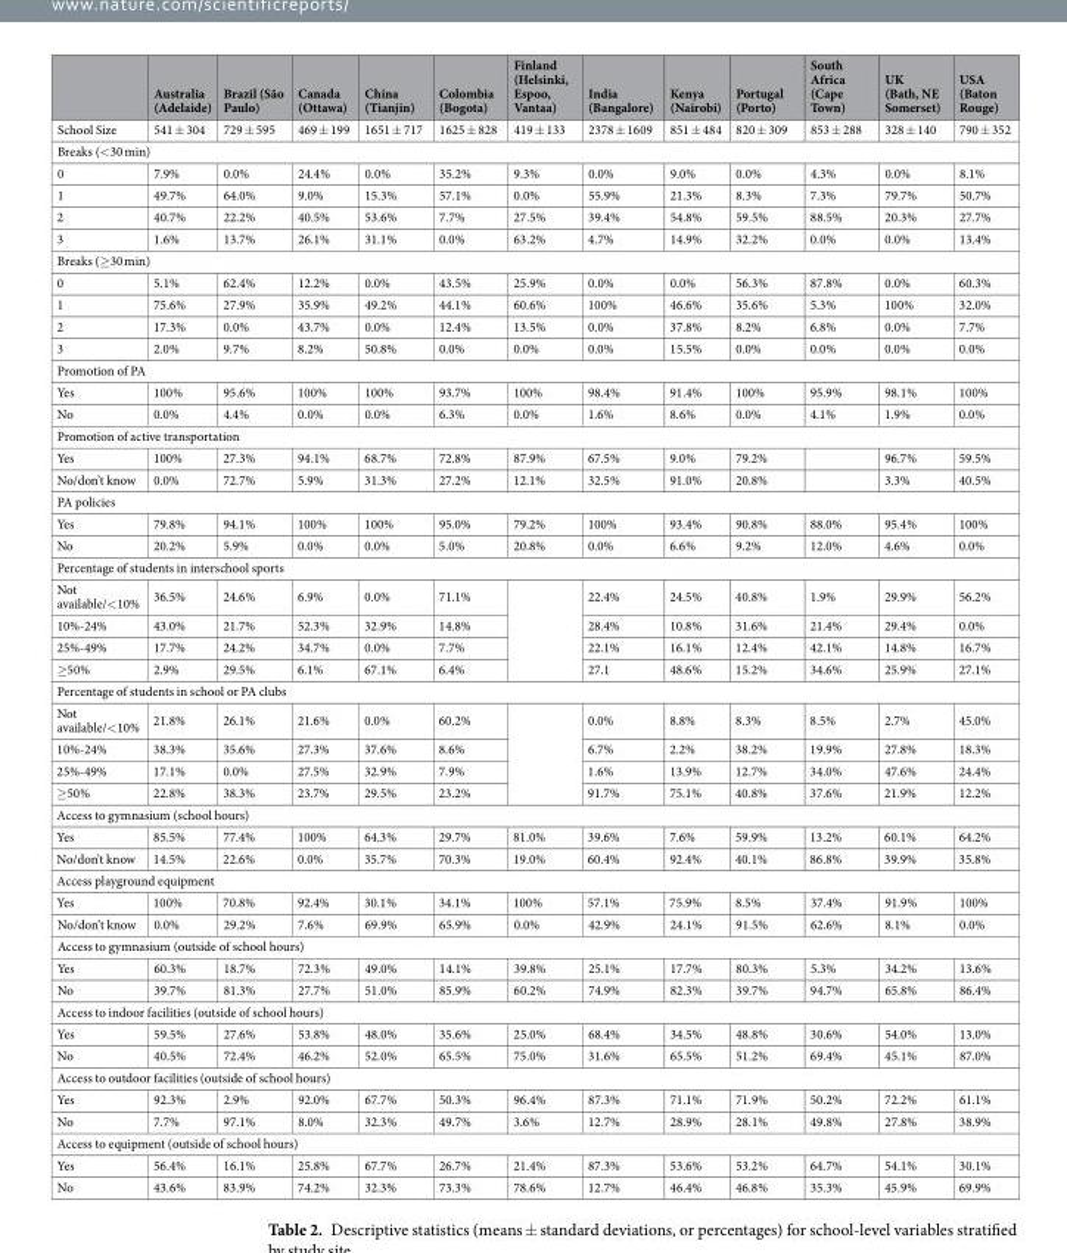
<table><thead><tr><td></td><td>Australia (Adelaide)</td><td>Brazil (São Paulo)</td><td>Canada (Ottawa)</td><td>China (Tianjin)</td><td>Colombia (Bogota)</td><td>Finland (Helsinki, Espoo, Vantaa)</td><td>India (Bangalore)</td><td>Kenya (Nairobi)</td><td>Portugal (Porto)</td><td>South Africa (Cape Town)</td><td>UK (Bath, NE Somerset)</td><td>USA (Baton Rouge)</td></tr></thead><tbody><tr><td>School Size</td><td>541 ± 304</td><td>729 ± 595</td><td>469 ± 199</td><td>1651 ± 717</td><td>1625 ± 828</td><td>419 ± 133</td><td>2378 ± 1609</td><td>851 ± 484</td><td>820 ± 309</td><td>853 ± 288</td><td>328 ± 140</td><td>790 ± 352</td></tr><tr><td colspan="13">Breaks (&lt;30 min)</td></tr><tr><td>0</td><td>7.9%</td><td>0.0%</td><td>24.4%</td><td>0.0%</td><td>35.2%</td><td>9.3%</td><td>0.0%</td><td>9.0%</td><td>0.0%</td><td>4.3%</td><td>0.0%</td><td>8.1%</td></tr><tr><td>1</td><td>49.7%</td><td>64.0%</td><td>9.0%</td><td>15.3%</td><td>57.1%</td><td>0.0%</td><td>55.9%</td><td>21.3%</td><td>8.3%</td><td>7.3%</td><td>79.7%</td><td>50.7%</td></tr><tr><td>2</td><td>40.7%</td><td>22.2%</td><td>40.5%</td><td>53.6%</td><td>7.7%</td><td>27.5%</td><td>39.4%</td><td>54.8%</td><td>59.5%</td><td>88.5%</td><td>20.3%</td><td>27.7%</td></tr><tr><td>3</td><td>1.6%</td><td>13.7%</td><td>26.1%</td><td>31.1%</td><td>0.0%</td><td>63.2%</td><td>4.7%</td><td>14.9%</td><td>32.2%</td><td>0.0%</td><td>0.0%</td><td>13.4%</td></tr><tr><td colspan="13">Breaks (≥30 min)</td></tr><tr><td>0</td><td>5.1%</td><td>62.4%</td><td>12.2%</td><td>0.0%</td><td>43.5%</td><td>25.9%</td><td>0.0%</td><td>0.0%</td><td>56.3%</td><td>87.8%</td><td>0.0%</td><td>60.3%</td></tr><tr><td>1</td><td>75.6%</td><td>27.9%</td><td>35.9%</td><td>49.2%</td><td>44.1%</td><td>60.6%</td><td>100%</td><td>46.6%</td><td>35.6%</td><td>5.3%</td><td>100%</td><td>32.0%</td></tr><tr><td>2</td><td>17.3%</td><td>0.0%</td><td>43.7%</td><td>0.0%</td><td>12.4%</td><td>13.5%</td><td>0.0%</td><td>37.8%</td><td>8.2%</td><td>6.8%</td><td>0.0%</td><td>7.7%</td></tr><tr><td>3</td><td>2.0%</td><td>9.7%</td><td>8.2%</td><td>50.8%</td><td>0.0%</td><td>0.0%</td><td>0.0%</td><td>15.5%</td><td>0.0%</td><td>0.0%</td><td>0.0%</td><td>0.0%</td></tr><tr><td colspan="13">Promotion of PA</td></tr><tr><td>Yes</td><td>100%</td><td>95.6%</td><td>100%</td><td>100%</td><td>93.7%</td><td>100%</td><td>98.4%</td><td>91.4%</td><td>100%</td><td>95.9%</td><td>98.1%</td><td>100%</td></tr><tr><td>No</td><td>0.0%</td><td>4.4%</td><td>0.0%</td><td>0.0%</td><td>6.3%</td><td>0.0%</td><td>1.6%</td><td>8.6%</td><td>0.0%</td><td>4.1%</td><td>1.9%</td><td>0.0%</td></tr><tr><td colspan="13">Promotion of active transportation</td></tr><tr><td>Yes</td><td>100%</td><td>27.3%</td><td>94.1%</td><td>68.7%</td><td>72.8%</td><td>87.9%</td><td>67.5%</td><td>9.0%</td><td>79.2%</td><td></td><td>96.7%</td><td>59.5%</td></tr><tr><td>No/don’t know</td><td>0.0%</td><td>72.7%</td><td>5.9%</td><td>31.3%</td><td>27.2%</td><td>12.1%</td><td>32.5%</td><td>91.0%</td><td>20.8%</td><td></td><td>3.3%</td><td>40.5%</td></tr><tr><td colspan="13">PA policies</td></tr><tr><td>Yes</td><td>79.8%</td><td>94.1%</td><td>100%</td><td>100%</td><td>95.0%</td><td>79.2%</td><td>100%</td><td>93.4%</td><td>90.8%</td><td>88.0%</td><td>95.4%</td><td>100%</td></tr><tr><td>No</td><td>20.2%</td><td>5.9%</td><td>0.0%</td><td>0.0%</td><td>5.0%</td><td>20.8%</td><td>0.0%</td><td>6.6%</td><td>9.2%</td><td>12.0%</td><td>4.6%</td><td>0.0%</td></tr><tr><td colspan="13">Percentage of students in interschool sports</td></tr><tr><td>Not available/&lt;10%</td><td>36.5%</td><td>24.6%</td><td>6.9%</td><td>0.0%</td><td>71.1%</td><td rowspan="4"></td><td>22.4%</td><td>24.5%</td><td>40.8%</td><td>1.9%</td><td>29.9%</td><td>56.2%</td></tr><tr><td>10%-24%</td><td>43.0%</td><td>21.7%</td><td>52.3%</td><td>32.9%</td><td>14.8%</td><td>28.4%</td><td>10.8%</td><td>31.6%</td><td>21.4%</td><td>29.4%</td><td>0.0%</td></tr><tr><td>25%-49%</td><td>17.7%</td><td>24.2%</td><td>34.7%</td><td>0.0%</td><td>7.7%</td><td>22.1%</td><td>16.1%</td><td>12.4%</td><td>42.1%</td><td>14.8%</td><td>16.7%</td></tr><tr><td>≥50%</td><td>2.9%</td><td>29.5%</td><td>6.1%</td><td>67.1%</td><td>6.4%</td><td>27.1</td><td>48.6%</td><td>15.2%</td><td>34.6%</td><td>25.9%</td><td>27.1%</td></tr><tr><td colspan="13">Percentage of students in school or PA clubs</td></tr><tr><td>Not available/&lt;10%</td><td>21.8%</td><td>26.1%</td><td>21.6%</td><td>0.0%</td><td>60.2%</td><td rowspan="4"></td><td>0.0%</td><td>8.8%</td><td>8.3%</td><td>8.5%</td><td>2.7%</td><td>45.0%</td></tr><tr><td>10%-24%</td><td>38.3%</td><td>35.6%</td><td>27.3%</td><td>37.6%</td><td>8.6%</td><td>6.7%</td><td>2.2%</td><td>38.2%</td><td>19.9%</td><td>27.8%</td><td>18.3%</td></tr><tr><td>25%-49%</td><td>17.1%</td><td>0.0%</td><td>27.5%</td><td>32.9%</td><td>7.9%</td><td>1.6%</td><td>13.9%</td><td>12.7%</td><td>34.0%</td><td>47.6%</td><td>24.4%</td></tr><tr><td>≥50%</td><td>22.8%</td><td>38.3%</td><td>23.7%</td><td>29.5%</td><td>23.2%</td><td>91.7%</td><td>75.1%</td><td>40.8%</td><td>37.6%</td><td>21.9%</td><td>12.2%</td></tr><tr><td colspan="13">Access to gymnasium (school hours)</td></tr><tr><td>Yes</td><td>85.5%</td><td>77.4%</td><td>100%</td><td>64.3%</td><td>29.7%</td><td>81.0%</td><td>39.6%</td><td>7.6%</td><td>59.9%</td><td>13.2%</td><td>60.1%</td><td>64.2%</td></tr><tr><td>No/don’t know</td><td>14.5%</td><td>22.6%</td><td>0.0%</td><td>35.7%</td><td>70.3%</td><td>19.0%</td><td>60.4%</td><td>92.4%</td><td>40.1%</td><td>86.8%</td><td>39.9%</td><td>35.8%</td></tr><tr><td colspan="13">Access playground equipment</td></tr><tr><td>Yes</td><td>100%</td><td>70.8%</td><td>92.4%</td><td>30.1%</td><td>34.1%</td><td>100%</td><td>57.1%</td><td>75.9%</td><td>8.5%</td><td>37.4%</td><td>91.9%</td><td>100%</td></tr><tr><td>No/don’t know</td><td>0.0%</td><td>29.2%</td><td>7.6%</td><td>69.9%</td><td>65.9%</td><td>0.0%</td><td>42.9%</td><td>24.1%</td><td>91.5%</td><td>62.6%</td><td>8.1%</td><td>0.0%</td></tr><tr><td colspan="13">Access to gymnasium (outside of school hours)</td></tr><tr><td>Yes</td><td>60.3%</td><td>18.7%</td><td>72.3%</td><td>49.0%</td><td>14.1%</td><td>39.8%</td><td>25.1%</td><td>17.7%</td><td>80.3%</td><td>5.3%</td><td>34.2%</td><td>13.6%</td></tr><tr><td>No</td><td>39.7%</td><td>81.3%</td><td>27.7%</td><td>51.0%</td><td>85.9%</td><td>60.2%</td><td>74.9%</td><td>82.3%</td><td>39.7%</td><td>94.7%</td><td>65.8%</td><td>86.4%</td></tr><tr><td colspan="13">Access to indoor facilities (outside of school hours)</td></tr><tr><td>Yes</td><td>59.5%</td><td>27.6%</td><td>53.8%</td><td>48.0%</td><td>35.6%</td><td>25.0%</td><td>68.4%</td><td>34.5%</td><td>48.8%</td><td>30.6%</td><td>54.0%</td><td>13.0%</td></tr><tr><td>No</td><td>40.5%</td><td>72.4%</td><td>46.2%</td><td>52.0%</td><td>65.5%</td><td>75.0%</td><td>31.6%</td><td>65.5%</td><td>51.2%</td><td>69.4%</td><td>45.1%</td><td>87.0%</td></tr><tr><td colspan="13">Access to outdoor facilities (outside of school hours)</td></tr><tr><td>Yes</td><td>92.3%</td><td>2.9%</td><td>92.0%</td><td>67.7%</td><td>50.3%</td><td>96.4%</td><td>87.3%</td><td>71.1%</td><td>71.9%</td><td>50.2%</td><td>72.2%</td><td>61.1%</td></tr><tr><td>No</td><td>7.7%</td><td>97.1%</td><td>8.0%</td><td>32.3%</td><td>49.7%</td><td>3.6%</td><td>12.7%</td><td>28.9%</td><td>28.1%</td><td>49.8%</td><td>27.8%</td><td>38.9%</td></tr><tr><td colspan="13">Access to equipment (outside of school hours)</td></tr><tr><td>Yes</td><td>56.4%</td><td>16.1%</td><td>25.8%</td><td>67.7%</td><td>26.7%</td><td>21.4%</td><td>87.3%</td><td>53.6%</td><td>53.2%</td><td>64.7%</td><td>54.1%</td><td>30.1%</td></tr><tr><td>No</td><td>43.6%</td><td>83.9%</td><td>74.2%</td><td>32.3%</td><td>73.3%</td><td>78.6%</td><td>12.7%</td><td>46.4%</td><td>46.8%</td><td>35.3%</td><td>45.9%</td><td>69.9%</td></tr></tbody></table>